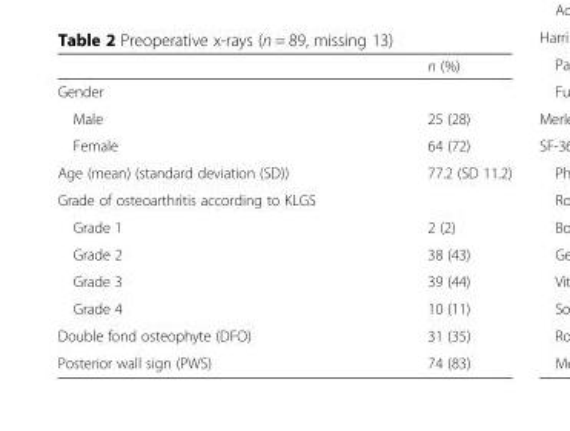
<table><thead><tr><td></td><td>n (%)</td></tr></thead><tbody><tr><td colspan="2">Gender</td></tr><tr><td>Male</td><td>25 (28)</td></tr><tr><td>Female</td><td>64 (72)</td></tr><tr><td>Age (mean) (standard deviation (SD))</td><td>77.2 (SD 11.2)</td></tr><tr><td colspan="2">Grade of osteoarthritis according to KLGS</td></tr><tr><td>Grade 1</td><td>2 (2)</td></tr><tr><td>Grade 2</td><td>38 (43)</td></tr><tr><td>Grade 3</td><td>39 (44)</td></tr><tr><td>Grade 4</td><td>10 (11)</td></tr><tr><td>Double fond osteophyte (DFO)</td><td>31 (35)</td></tr><tr><td>Posterior wall sign (PWS)</td><td>74 (83)</td></tr></tbody></table>